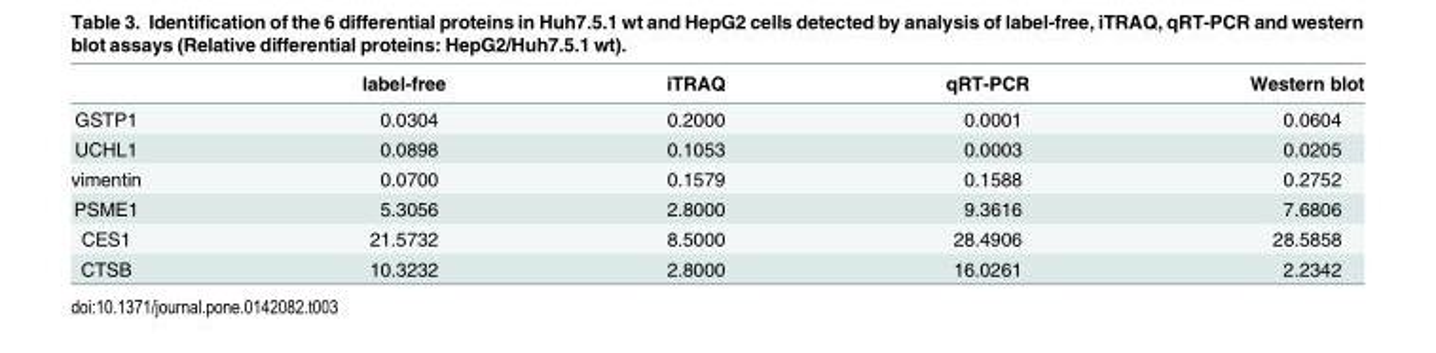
<table><thead><tr><td></td><td>label-free</td><td>iTRAQ</td><td>qRT-PCR</td><td>Western blot</td></tr></thead><tbody><tr><td>GSTP1</td><td>0.0304</td><td>0.2000</td><td>0.0001</td><td>0.0604</td></tr><tr><td>UCHL1</td><td>0.0898</td><td>0.1053</td><td>0.0003</td><td>0.0205</td></tr><tr><td>vimentin</td><td>0.0700</td><td>0.1579</td><td>0.1588</td><td>0.2752</td></tr><tr><td>PSME1</td><td>5.3056</td><td>2.8000</td><td>9.3616</td><td>7.6806</td></tr><tr><td>CES1</td><td>21.5732</td><td>8.5000</td><td>28.4906</td><td>28.5858</td></tr><tr><td>CTSB</td><td>10.3232</td><td>2.8000</td><td>16.0261</td><td>2.2342</td></tr></tbody></table>